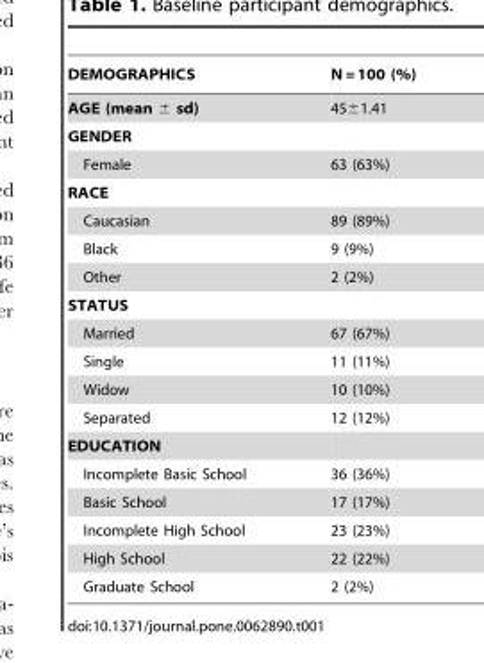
<table><thead><tr><td>DEMOGRAPHICS</td><td>N = 100 (%)</td></tr></thead><tbody><tr><td>AGE (mean ± sd)</td><td>45±1.41</td></tr><tr><td colspan="2">GENDER</td></tr><tr><td>Female</td><td>63 (63%)</td></tr><tr><td colspan="2">RACE</td></tr><tr><td>Caucasian</td><td>89 (89%)</td></tr><tr><td>Black</td><td>9 (9%)</td></tr><tr><td>Other</td><td>2 (2%)</td></tr><tr><td colspan="2">STATUS</td></tr><tr><td>Married</td><td>67 (67%)</td></tr><tr><td>Single</td><td>11 (11%)</td></tr><tr><td>Widow</td><td>10 (10%)</td></tr><tr><td>Separated</td><td>12 (12%)</td></tr><tr><td colspan="2">EDUCATION</td></tr><tr><td>Incomplete Basic School</td><td>36 (36%)</td></tr><tr><td>Basic School</td><td>17 (17%)</td></tr><tr><td>Incomplete High School</td><td>23 (23%)</td></tr><tr><td>High School</td><td>22 (22%)</td></tr><tr><td>Graduate School</td><td>2 (2%)</td></tr></tbody></table>